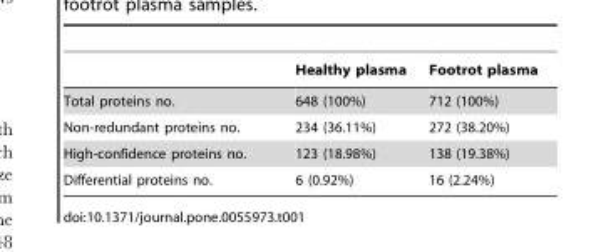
<table><thead><tr><td></td><td>Healthy plasma</td><td>Footrot plasma</td></tr></thead><tbody><tr><td>Total proteins no.</td><td>648 (100%)</td><td>712 (100%)</td></tr><tr><td>Non-redundant proteins no.</td><td>234 (36.11%)</td><td>272 (38.20%)</td></tr><tr><td>High-confidence proteins no.</td><td>123 (18.98%)</td><td>138 (19.38%)</td></tr><tr><td>Differential proteins no.</td><td>6 (0.92%)</td><td>16 (2.24%)</td></tr></tbody></table>